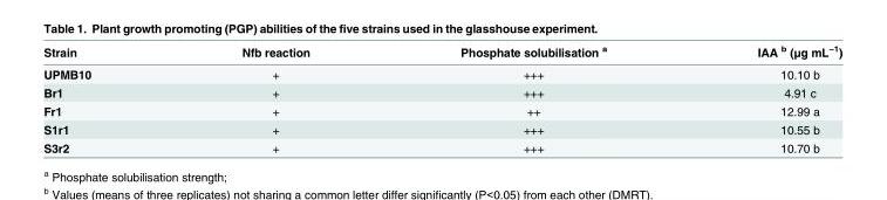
<table><thead><tr><td>Strain</td><td>Nfb reaction</td><td>Phosphate solubilisation <sup>a</sup></td><td>IAA <sup>b</sup> (μg mL<sup>−1</sup>)</td></tr></thead><tbody><tr><td>UPMB10</td><td>+</td><td>+++</td><td>10.10 b</td></tr><tr><td>Br1</td><td>+</td><td>+++</td><td>4.91 c</td></tr><tr><td>Fr1</td><td>+</td><td>++</td><td>12.99 a</td></tr><tr><td>S1r1</td><td>+</td><td>+++</td><td>10.55 b</td></tr><tr><td>S3r2</td><td>+</td><td>+++</td><td>10.70 b</td></tr></tbody></table>